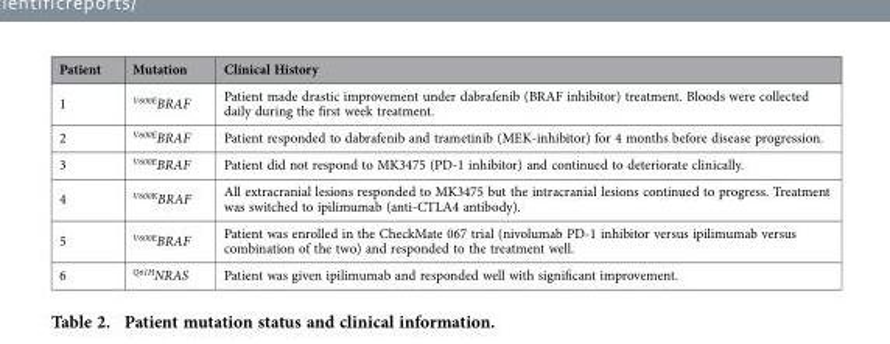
<table><thead><tr><td>Patient</td><td>Mutation</td><td>Clinical History</td></tr></thead><tbody><tr><td>1</td><td><sup>V600E</sup>BRAF</td><td>Patient made drastic improvement under dabrafenib (BRAF inhibitor) treatment. Bloods were collected daily during the first week treatment.</td></tr><tr><td>2</td><td><sup>V600E</sup>BRAF</td><td>Patient responded to dabrafenib and trametinib (MEK-inhibitor) for 4 months before disease progression.</td></tr><tr><td>3</td><td><sup>V600E</sup>BRAF</td><td>Patient did not respond to MK3475 (PD-1 inhibitor) and continued to deteriorate clinically.</td></tr><tr><td>4</td><td><sup>V600K</sup>BRAF</td><td>All extracranial lesions responded to MK3475 but the intracranial lesions continued to progress. Treatment was switched to ipilimumab (anti-CTLA4 antibody).</td></tr><tr><td>5</td><td><sup>V600E</sup>BRAF</td><td>Patient was enrolled in the CheckMate 067 trial (nivolumab PD-1 inhibitor versus ipilimumab versus combination of the two) and responded to the treatment well.</td></tr><tr><td>6</td><td><sup>Q61H</sup>NRAS</td><td>Patient was given ipilimumab and responded well with significant improvement.</td></tr></tbody></table>